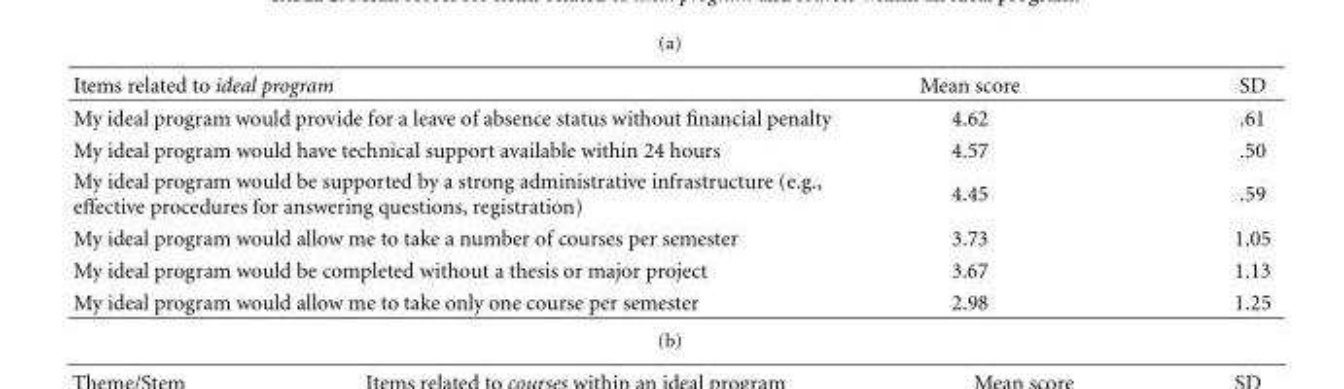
<table><thead><tr><td>Items related to ideal program</td><td>Mean score</td><td>SD</td></tr></thead><tbody><tr><td>My ideal program would provide for a leave of absence status without financial penalty</td><td>4.62</td><td>.61</td></tr><tr><td>My ideal program would have technical support available within 24 hours</td><td>4.57</td><td>.50</td></tr><tr><td>My ideal program would be supported by a strong administrative infrastructure (e.g., effective procedures for answering questions, registration)</td><td>4.45</td><td>.59</td></tr><tr><td>My ideal program would allow me to take a number of courses per semester</td><td>3.73</td><td>1.05</td></tr><tr><td>My ideal program would be completed without a thesis or major project</td><td>3.67</td><td>1.13</td></tr><tr><td>My ideal program would allow me to take only one course per semester</td><td>2.98</td><td>1.25</td></tr></tbody></table>